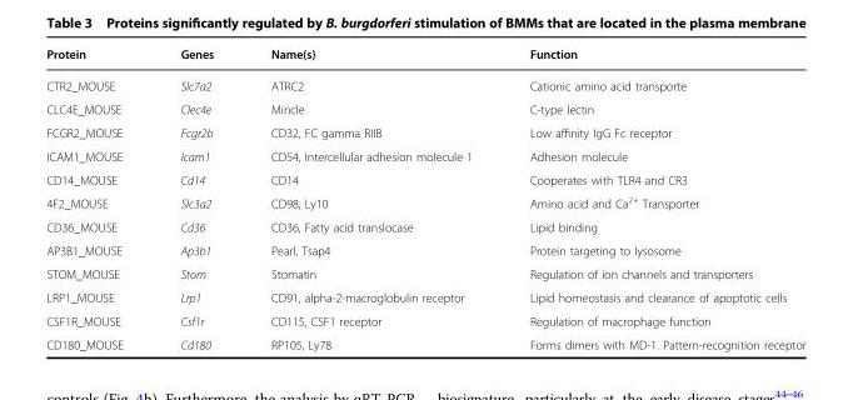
<table><thead><tr><td>Protein</td><td>Genes</td><td>Name(s)</td><td>Function</td></tr></thead><tbody><tr><td>CTR2_MOUSE</td><td>Slc7a2</td><td>ATRC2</td><td>Cationic amino acid transporte</td></tr><tr><td>CLC4E_MOUSE</td><td>Clec4e</td><td>Mincle</td><td>C-type lectin</td></tr><tr><td>FCGR2_MOUSE</td><td>Fcgr2b</td><td>CD32, FC gamma RIIB</td><td>Low affinity IgG Fc receptor</td></tr><tr><td>ICAM1_MOUSE</td><td>Icam1</td><td>CD54, Intercellular adhesion molecule 1</td><td>Adhesion molecule</td></tr><tr><td>CD14_MOUSE</td><td>Cd14</td><td>CD14</td><td>Cooperates with TLR4 and CR3</td></tr><tr><td>4F2_MOUSE</td><td>Slc3a2</td><td>CD98, Ly10</td><td>Amino acid and Ca<sup>2+</sup> Transporter</td></tr><tr><td>CD36_MOUSE</td><td>Cd36</td><td>CD36, Fatty acid translocase</td><td>Lipid binding</td></tr><tr><td>AP3B1_MOUSE</td><td>Ap3b1</td><td>Pearl, Tsap4</td><td>Protein targeting to lysosome</td></tr><tr><td>STOM_MOUSE</td><td>Stom</td><td>Stomatin</td><td>Regulation of ion channels and transporters</td></tr><tr><td>LRP1_MOUSE</td><td>Lrp1</td><td>CD91, alpha-2-macroglobulin receptor</td><td>Lipid homeostasis and clearance of apoptotic cells</td></tr><tr><td>CSF1R_MOUSE</td><td>Csf1r</td><td>CD115, CSF1 receptor</td><td>Regulation of macrophage function</td></tr><tr><td>CD180_MOUSE</td><td>Cd180</td><td>RP105, Ly78</td><td>Forms dimers with MD-1. Pattern-recognition receptor</td></tr></tbody></table>